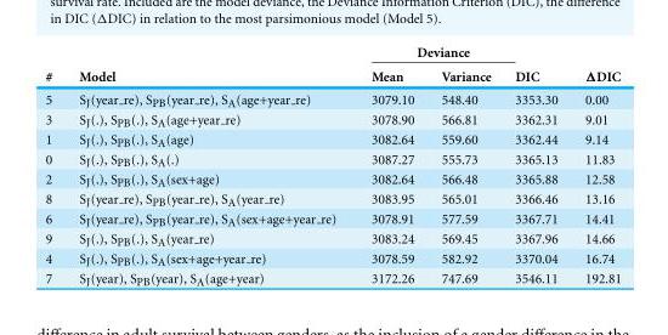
<table><thead><tr><td rowspan="2">#</td><td rowspan="2">Model</td><td colspan="2">Deviance</td><td rowspan="2">DIC</td><td rowspan="2">ΔDIC</td></tr><tr><td>Mean</td><td>Variance</td></tr></thead><tbody><tr><td>5</td><td>SJ(year re), SPB(year re), SA(age+year re)</td><td>3079.10</td><td>548.40</td><td>3353.30</td><td>0.00</td></tr><tr><td>3</td><td>SJ(.), SPB(.), SA(age+year re)</td><td>3078.90</td><td>566.81</td><td>3362.31</td><td>9.01</td></tr><tr><td>1</td><td>S<sub>J</sub>(.), S<sub>PB</sub>(.), S<sub>A</sub>(age)</td><td>3082.64</td><td>559.60</td><td>3362.44</td><td>9.14</td></tr><tr><td>0</td><td>S<sub>J</sub>(.), S<sub>PB</sub>(.), S<sub>A</sub>(.)</td><td>3087.27</td><td>555.73</td><td>3365.13</td><td>11.83</td></tr><tr><td>2</td><td>S<sub>J</sub>(.), S<sub>PB</sub>(.), S<sub>A</sub>(sex+age)</td><td>3082.64</td><td>566.48</td><td>3365.88</td><td>12.58</td></tr><tr><td>8</td><td>SJ(year re), SPB(year re), SA(year re)</td><td>3083.95</td><td>565.01</td><td>3366.46</td><td>13.16</td></tr><tr><td>6</td><td>SJ(year re), SPB(year re), SA(sex+age+year re)</td><td>3078.91</td><td>577.59</td><td>3367.71</td><td>14.41</td></tr><tr><td>9</td><td>SJ(.), SPB(.), SA(year re)</td><td>3083.24</td><td>569.45</td><td>3367.96</td><td>14.66</td></tr><tr><td>4</td><td>SJ(.), SPB(.), SA(sex+age+year re)</td><td>3078.59</td><td>582.92</td><td>3370.04</td><td>16.74</td></tr><tr><td>7</td><td>S<sub>J</sub>(year), S<sub>PB</sub>(year), S<sub>A</sub>(age+year)</td><td>3172.26</td><td>747.69</td><td>3546.11</td><td>192.81</td></tr></tbody></table>